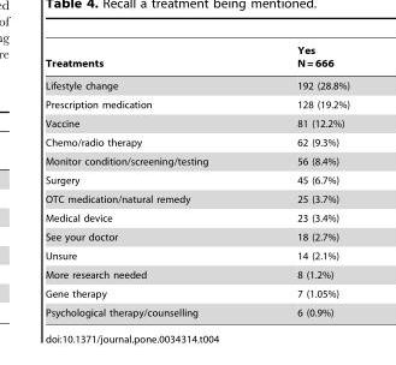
<table><thead><tr><td>Treatments</td><td>Yes N = 666</td></tr></thead><tbody><tr><td>Lifestyle change</td><td>192 (28.8%)</td></tr><tr><td>Prescription medication</td><td>128 (19.2%)</td></tr><tr><td>Vaccine</td><td>81 (12.2%)</td></tr><tr><td>Chemo/radio therapy</td><td>62 (9.3%)</td></tr><tr><td>Monitor condition/screening/testing</td><td>56 (8.4%)</td></tr><tr><td>Surgery</td><td>45 (6.7%)</td></tr><tr><td>OTC medication/natural remedy</td><td>25 (3.7%)</td></tr><tr><td>Medical device</td><td>23 (3.4%)</td></tr><tr><td>See your doctor</td><td>18 (2.7%)</td></tr><tr><td>Unsure</td><td>14 (2.1%)</td></tr><tr><td>More research needed</td><td>8 (1.2%)</td></tr><tr><td>Gene therapy</td><td>7 (1.05%)</td></tr><tr><td>Psychological therapy/counselling</td><td>6 (0.9%)</td></tr></tbody></table>